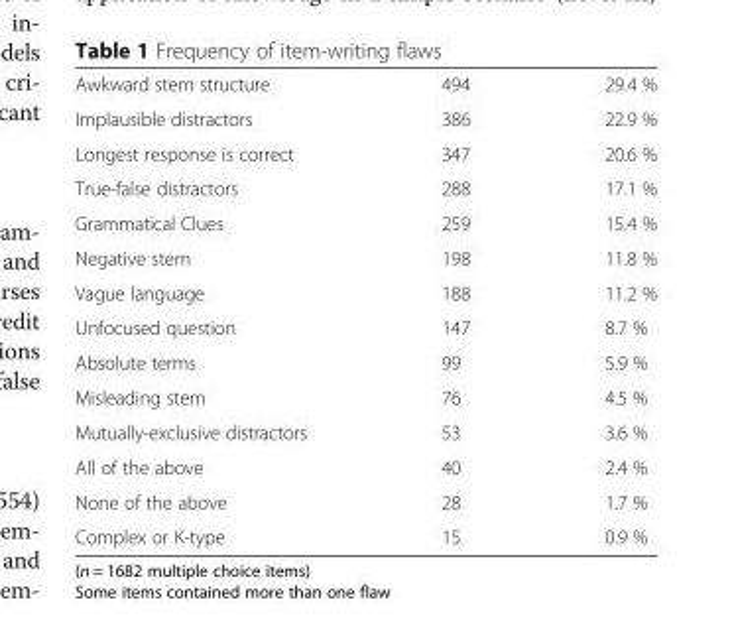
<table><tbody><tr><td>Awkward stem structure</td><td>494</td><td>29.4 %</td></tr><tr><td>Implausible distractors</td><td>386</td><td>22.9 %</td></tr><tr><td>Longest response is correct</td><td>347</td><td>20.6 %</td></tr><tr><td>True-false distractors</td><td>288</td><td>17.1 %</td></tr><tr><td>Grammatical Clues</td><td>259</td><td>15.4 %</td></tr><tr><td>Negative stem</td><td>198</td><td>11.8 %</td></tr><tr><td>Vague language</td><td>188</td><td>11.2 %</td></tr><tr><td>Unfocused question</td><td>147</td><td>8.7 %</td></tr><tr><td>Absolute terms</td><td>99</td><td>5.9 %</td></tr><tr><td>Misleading stem</td><td>76</td><td>4.5 %</td></tr><tr><td>Mutually-exclusive distractors</td><td>53</td><td>3.6 %</td></tr><tr><td>All of the above</td><td>40</td><td>2.4 %</td></tr><tr><td>None of the above</td><td>28</td><td>1.7 %</td></tr><tr><td>Complex or K-type</td><td>15</td><td>0.9 %</td></tr></tbody></table>